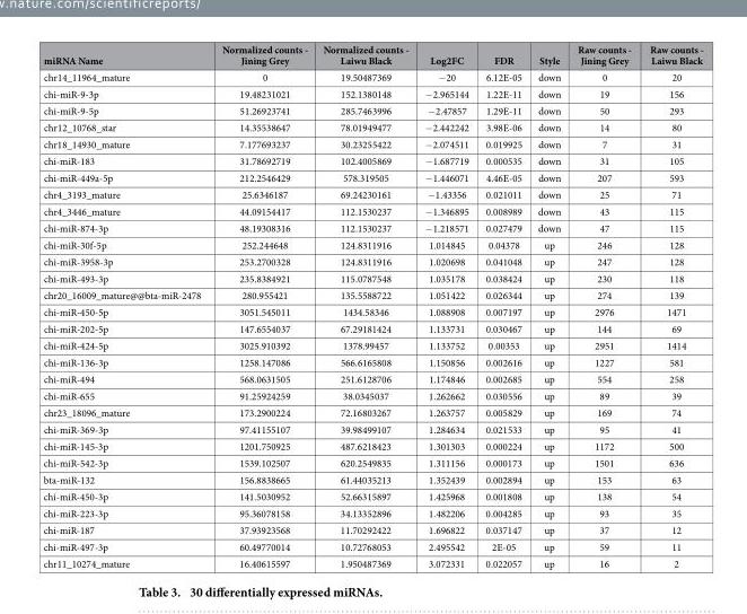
<table><thead><tr><td>miRNA Name</td><td>Normalized counts - Jining Grey</td><td>Normalized counts - Laiwu Black</td><td>Log2FC</td><td>FDR</td><td>Style</td><td>Raw counts - Jining Grey</td><td>Raw counts - Laiwu Black</td></tr></thead><tbody><tr><td>chr14_11964_mature</td><td>0</td><td>19.50487369</td><td>− 20</td><td>6.12E-05</td><td>down</td><td>0</td><td>20</td></tr><tr><td>chi-miR-9-3p</td><td>19.48231021</td><td>152.1380148</td><td>− 2.965144</td><td>1.22E-11</td><td>down</td><td>19</td><td>156</td></tr><tr><td>chi-miR-9-5p</td><td>51.26923741</td><td>285.7463996</td><td>− 2.47857</td><td>1.29E-11</td><td>down</td><td>50</td><td>293</td></tr><tr><td>chr12_10768_star</td><td>14.35538647</td><td>78.01949477</td><td>− 2.442242</td><td>3.98E-06</td><td>down</td><td>14</td><td>80</td></tr><tr><td>chr18_14930_mature</td><td>7.177693237</td><td>30.23255422</td><td>− 2.074511</td><td>0.019925</td><td>down</td><td>7</td><td>31</td></tr><tr><td>chi-miR-183</td><td>31.78692719</td><td>102.4005869</td><td>− 1.687719</td><td>0.000535</td><td>down</td><td>31</td><td>105</td></tr><tr><td>chi-miR-449a-5p</td><td>212.2546429</td><td>578.319505</td><td>− 1.446071</td><td>4.46E-05</td><td>down</td><td>207</td><td>593</td></tr><tr><td>chr4_3193_mature</td><td>25.6346187</td><td>69.24230161</td><td>− 1.43356</td><td>0.021011</td><td>down</td><td>25</td><td>71</td></tr><tr><td>chr4_3446_mature</td><td>44.09154417</td><td>112.1530237</td><td>− 1.346895</td><td>0.008989</td><td>down</td><td>43</td><td>115</td></tr><tr><td>chi-miR-874-3p</td><td>48.19308316</td><td>112.1530237</td><td>− 1.218571</td><td>0.027479</td><td>down</td><td>47</td><td>115</td></tr><tr><td>chi-miR-30f-5p</td><td>252.244648</td><td>124.8311916</td><td>1.014845</td><td>0.04378</td><td>up</td><td>246</td><td>128</td></tr><tr><td>chi-miR-3958-3p</td><td>253.2700328</td><td>124.8311916</td><td>1.020698</td><td>0.041048</td><td>up</td><td>247</td><td>128</td></tr><tr><td>chi-miR-493-3p</td><td>235.8384921</td><td>115.0787548</td><td>1.035178</td><td>0.038424</td><td>up</td><td>230</td><td>118</td></tr><tr><td>chr20_16009_mature@@bta-miR-2478</td><td>280.955421</td><td>135.5588722</td><td>1.051422</td><td>0.026344</td><td>up</td><td>274</td><td>139</td></tr><tr><td>chi-miR-450-5p</td><td>3051.545011</td><td>1434.58346</td><td>1.088908</td><td>0.007197</td><td>up</td><td>2976</td><td>1471</td></tr><tr><td>chi-miR-202-5p</td><td>147.6554037</td><td>67.29181424</td><td>1.133731</td><td>0.030467</td><td>up</td><td>144</td><td>69</td></tr><tr><td>chi-miR-424-5p</td><td>3025.910392</td><td>1378.99457</td><td>1.133752</td><td>0.00353</td><td>up</td><td>2951</td><td>1414</td></tr><tr><td>chi-miR-136-3p</td><td>1258.147086</td><td>566.6165808</td><td>1.150856</td><td>0.002616</td><td>up</td><td>1227</td><td>581</td></tr><tr><td>chi-miR-494</td><td>568.0631505</td><td>251.6128706</td><td>1.174846</td><td>0.002685</td><td>up</td><td>554</td><td>258</td></tr><tr><td>chi-miR-655</td><td>91.25924259</td><td>38.0345037</td><td>1.262662</td><td>0.030556</td><td>up</td><td>89</td><td>39</td></tr><tr><td>chr23_18096_mature</td><td>173.2900224</td><td>72.16803267</td><td>1.263757</td><td>0.005829</td><td>up</td><td>169</td><td>74</td></tr><tr><td>chi-miR-369-3p</td><td>97.41155107</td><td>39.98499107</td><td>1.284634</td><td>0.021533</td><td>up</td><td>95</td><td>41</td></tr><tr><td>chi-miR-145-3p</td><td>1201.750925</td><td>487.6218423</td><td>1.301303</td><td>0.000224</td><td>up</td><td>1172</td><td>500</td></tr><tr><td>chi-miR-542-3p</td><td>1539.102507</td><td>620.2549835</td><td>1.311156</td><td>0.000173</td><td>up</td><td>1501</td><td>636</td></tr><tr><td>bta-miR-132</td><td>156.8838665</td><td>61.44035213</td><td>1.352439</td><td>0.002894</td><td>up</td><td>153</td><td>63</td></tr><tr><td>chi-miR-450-3p</td><td>141.5030952</td><td>52.66315897</td><td>1.425968</td><td>0.001808</td><td>up</td><td>138</td><td>54</td></tr><tr><td>chi-miR-223-3p</td><td>95.36078158</td><td>34.13352896</td><td>1.482206</td><td>0.004285</td><td>up</td><td>93</td><td>35</td></tr><tr><td>chi-miR-187</td><td>37.93923568</td><td>11.70292422</td><td>1.696822</td><td>0.037147</td><td>up</td><td>37</td><td>12</td></tr><tr><td>chi-miR-497-3p</td><td>60.49770014</td><td>10.72768053</td><td>2.495542</td><td>2E-05</td><td>up</td><td>59</td><td>11</td></tr><tr><td>chr11_10274_mature</td><td>16.40615597</td><td>1.950487369</td><td>3.072331</td><td>0.022057</td><td>up</td><td>16</td><td>2</td></tr></tbody></table>